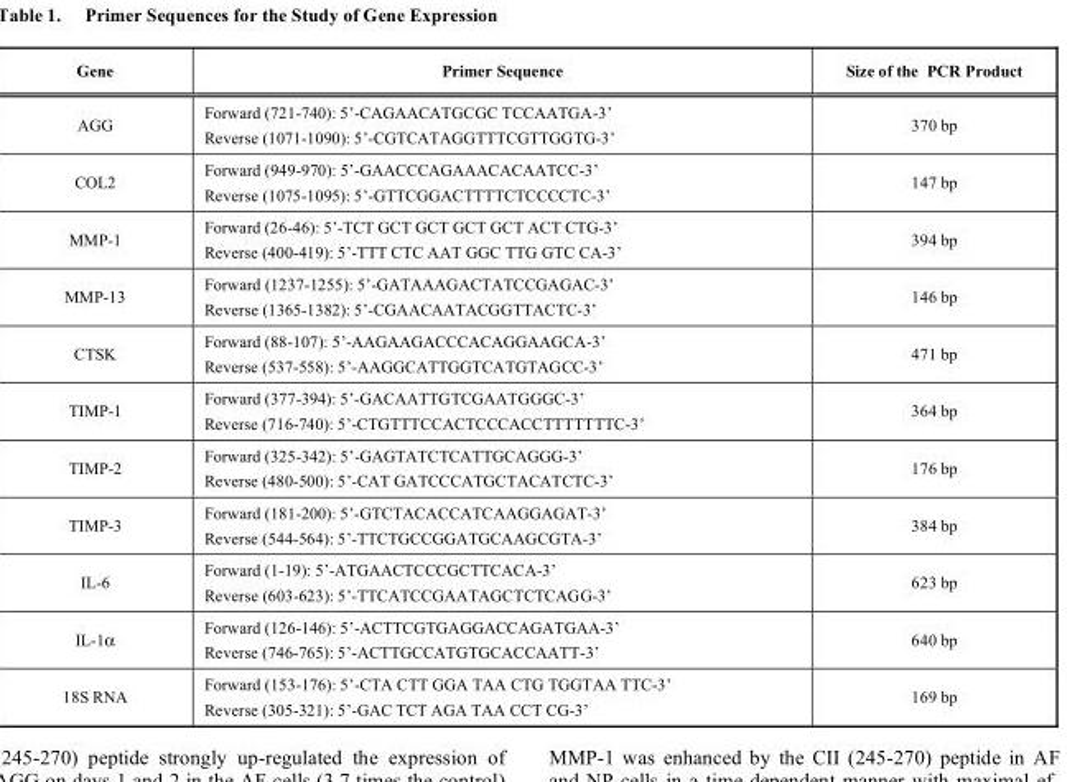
<table><thead><tr><td>Gene</td><td>Primer Sequence</td><td>Size of the PCR Product</td></tr></thead><tbody><tr><td>AGG</td><td>Forward (721-740): 5’-CAGAACATGCGC TCCAATGA-3’ Reverse (1071-1090): 5’-CGTCATAGGTTTCGTTGGTG-3’</td><td>370 bp</td></tr><tr><td>COL2</td><td>Forward (949-970): 5’-GAACCCAGAAACACAATCC-3’ Reverse (1075-1095): 5’-GTTCGGACTTTTCTCCCCTC-3’</td><td>147 bp</td></tr><tr><td>MMP-1</td><td>Forward (26-46): 5’-TCT GCT GCT GCT GCT ACT CTG-3’ Reverse (400-419): 5’-TTT CTC AAT GGC TTG GTC CA-3’</td><td>394 bp</td></tr><tr><td>MMP-13</td><td>Forward (1237-1255): 5’-GATAAAGACTATCCGAGAC-3’ Reverse (1365-1382): 5’-CGAACAATACGGTTACTC-3’</td><td>146 bp</td></tr><tr><td>CTSK</td><td>Forward (88-107): 5’-AAGAAGACCCACAGGAAGCA-3’ Reverse (537-558): 5’-AAGGCATTGGTCATGTAGCC-3’</td><td>471 bp</td></tr><tr><td>TIMP-1</td><td>Forward (377-394): 5’-GACAATTGTCGAATGGGC-3’ Reverse (716-740): 5’-CTGTTTCCACTCCCACCTTTTTTTC-3’</td><td>364 bp</td></tr><tr><td>TIMP-2</td><td>Forward (325-342): 5’-GAGTATCTCATTGCAGGG-3’ Reverse (480-500): 5’-CAT GATCCCATGCTACATCTC-3’</td><td>176 bp</td></tr><tr><td>TIMP-3</td><td>Forward (181-200): 5’-GTCTACACCATCAAGGAGAT-3’ Reverse (544-564): 5’-TTCTGCCGGATGCAAGCGTA-3’</td><td>384 bp</td></tr><tr><td>IL-6</td><td>Forward (1-19): 5’-ATGAACTCCCGCTTCACA-3’ Reverse (603-623): 5’-TTCATCCGAATAGCTCTCAGG-3’</td><td>623 bp</td></tr><tr><td>IL-1α</td><td>Forward (126-146): 5’-ACTTCGTGAGGACCAGATGAA-3’ Reverse (746-765): 5’-ACTTGCCATGTGCACCAATT-3’</td><td>640 bp</td></tr><tr><td>18S RNA</td><td>Forward (153-176): 5’-CTA CTT GGA TAA CTG TGGTAA TTC-3’ Reverse (305-321): 5’-GAC TCT AGA TAA CCT CG-3’</td><td>169 bp</td></tr></tbody></table>